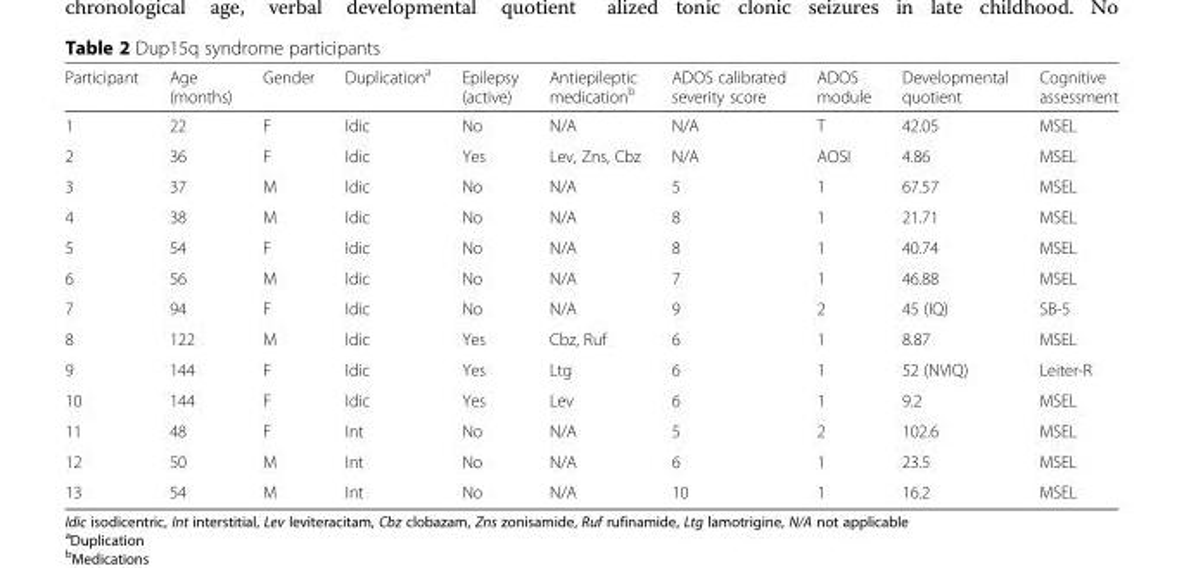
<table><thead><tr><td>Participant</td><td>Age (months)</td><td>Gender</td><td>Duplication<sup>a</sup></td><td>Epilepsy (active)</td><td>Antiepileptic medication<sup>b</sup></td><td>ADOS calibrated severity score</td><td>ADOS module</td><td>Developmental quotient</td><td>Cognitive assessment</td></tr></thead><tbody><tr><td>1</td><td>22</td><td>F</td><td>Idic</td><td>No</td><td>N/A</td><td>N/A</td><td>T</td><td>42.05</td><td>MSEL</td></tr><tr><td>2</td><td>36</td><td>F</td><td>Idic</td><td>Yes</td><td>Lev, Zns, Cbz</td><td>N/A</td><td>AOSI</td><td>4.86</td><td>MSEL</td></tr><tr><td>3</td><td>37</td><td>M</td><td>Idic</td><td>No</td><td>N/A</td><td>5</td><td>1</td><td>67.57</td><td>MSEL</td></tr><tr><td>4</td><td>38</td><td>M</td><td>Idic</td><td>No</td><td>N/A</td><td>8</td><td>1</td><td>21.71</td><td>MSEL</td></tr><tr><td>5</td><td>54</td><td>F</td><td>Idic</td><td>No</td><td>N/A</td><td>8</td><td>1</td><td>40.74</td><td>MSEL</td></tr><tr><td>6</td><td>56</td><td>M</td><td>Idic</td><td>No</td><td>N/A</td><td>7</td><td>1</td><td>46.88</td><td>MSEL</td></tr><tr><td>7</td><td>94</td><td>F</td><td>Idic</td><td>No</td><td>N/A</td><td>9</td><td>2</td><td>45 (IQ)</td><td>SB-5</td></tr><tr><td>8</td><td>122</td><td>M</td><td>Idic</td><td>Yes</td><td>Cbz, Ruf</td><td>6</td><td>1</td><td>8.87</td><td>MSEL</td></tr><tr><td>9</td><td>144</td><td>F</td><td>Idic</td><td>Yes</td><td>Ltg</td><td>6</td><td>1</td><td>52 (NVIQ)</td><td>Leiter-R</td></tr><tr><td>10</td><td>144</td><td>F</td><td>Idic</td><td>Yes</td><td>Lev</td><td>6</td><td>1</td><td>9.2</td><td>MSEL</td></tr><tr><td>11</td><td>48</td><td>F</td><td>Int</td><td>No</td><td>N/A</td><td>5</td><td>2</td><td>102.6</td><td>MSEL</td></tr><tr><td>12</td><td>50</td><td>M</td><td>Int</td><td>No</td><td>N/A</td><td>6</td><td>1</td><td>23.5</td><td>MSEL</td></tr><tr><td>13</td><td>54</td><td>M</td><td>Int</td><td>No</td><td>N/A</td><td>10</td><td>1</td><td>16.2</td><td>MSEL</td></tr></tbody></table>